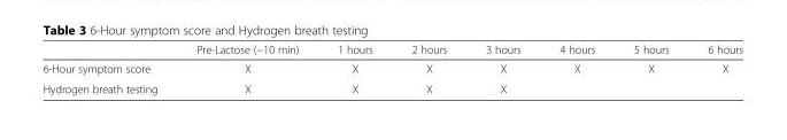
<table><thead><tr><td></td><td>Pre-Lactose (−10 min)</td><td>1 hours</td><td>2 hours</td><td>3 hours</td><td>4 hours</td><td>5 hours</td><td>6 hours</td></tr></thead><tbody><tr><td>6-Hour symptom score</td><td>X</td><td>X</td><td>X</td><td>X</td><td>X</td><td>X</td><td>X</td></tr><tr><td>Hydrogen breath testing</td><td>X</td><td>X</td><td>X</td><td>X</td><td></td><td></td><td></td></tr></tbody></table>